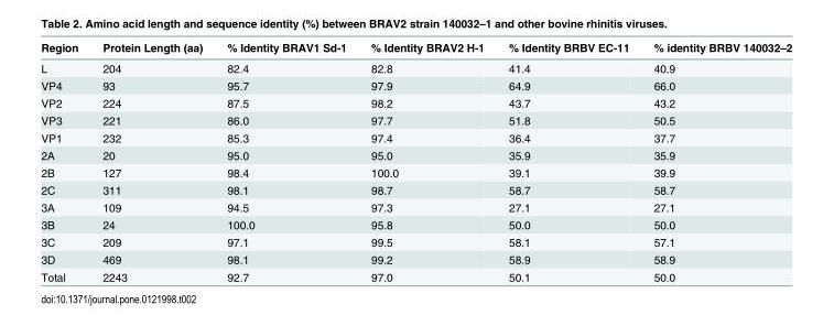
<table><thead><tr><td>Region</td><td>Protein Length (aa)</td><td>% Identity BRAV1 Sd-1</td><td>% Identity BRAV2 H-1</td><td>% Identity BRBV EC-11</td><td>% identity BRBV 140032–2</td></tr></thead><tbody><tr><td>L</td><td>204</td><td>82.4</td><td>82.8</td><td>41.4</td><td>40.9</td></tr><tr><td>VP4</td><td>93</td><td>95.7</td><td>97.9</td><td>64.9</td><td>66.0</td></tr><tr><td>VP2</td><td>224</td><td>87.5</td><td>98.2</td><td>43.7</td><td>43.2</td></tr><tr><td>VP3</td><td>221</td><td>86.0</td><td>97.7</td><td>51.8</td><td>50.5</td></tr><tr><td>VP1</td><td>232</td><td>85.3</td><td>97.4</td><td>36.4</td><td>37.7</td></tr><tr><td>2A</td><td>20</td><td>95.0</td><td>95.0</td><td>35.9</td><td>35.9</td></tr><tr><td>2B</td><td>127</td><td>98.4</td><td>100.0</td><td>39.1</td><td>39.9</td></tr><tr><td>2C</td><td>311</td><td>98.1</td><td>98.7</td><td>58.7</td><td>58.7</td></tr><tr><td>3A</td><td>109</td><td>94.5</td><td>97.3</td><td>27.1</td><td>27.1</td></tr><tr><td>3B</td><td>24</td><td>100.0</td><td>95.8</td><td>50.0</td><td>50.0</td></tr><tr><td>3C</td><td>209</td><td>97.1</td><td>99.5</td><td>58.1</td><td>57.1</td></tr><tr><td>3D</td><td>469</td><td>98.1</td><td>99.2</td><td>58.9</td><td>58.9</td></tr><tr><td>Total</td><td>2243</td><td>92.7</td><td>97.0</td><td>50.1</td><td>50.0</td></tr></tbody></table>